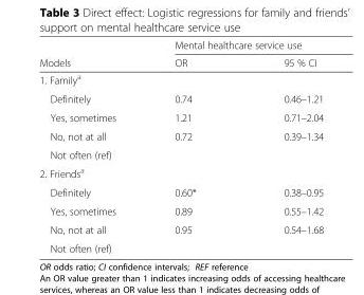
<table><thead><tr><td rowspan="2">Models</td><td colspan="2">Mental healthcare service use</td></tr><tr><td>OR</td><td>95 % CI</td></tr></thead><tbody><tr><td colspan="3">1. Family<sup>a</sup></td></tr><tr><td>Definitely</td><td>0.74</td><td>0.46–1.21</td></tr><tr><td>Yes, sometimes</td><td>1.21</td><td>0.71–2.04</td></tr><tr><td>No, not at all</td><td>0.72</td><td>0.39–1.34</td></tr><tr><td colspan="3">Not often (ref)</td></tr><tr><td colspan="3">2. Friends<sup>a</sup></td></tr><tr><td>Definitely</td><td>0.60*</td><td>0.38–0.95</td></tr><tr><td>Yes, sometimes</td><td>0.89</td><td>0.55–1.42</td></tr><tr><td>No, not at all</td><td>0.95</td><td>0.54–1.68</td></tr><tr><td>Not often (ref)</td><td></td><td></td></tr></tbody></table>